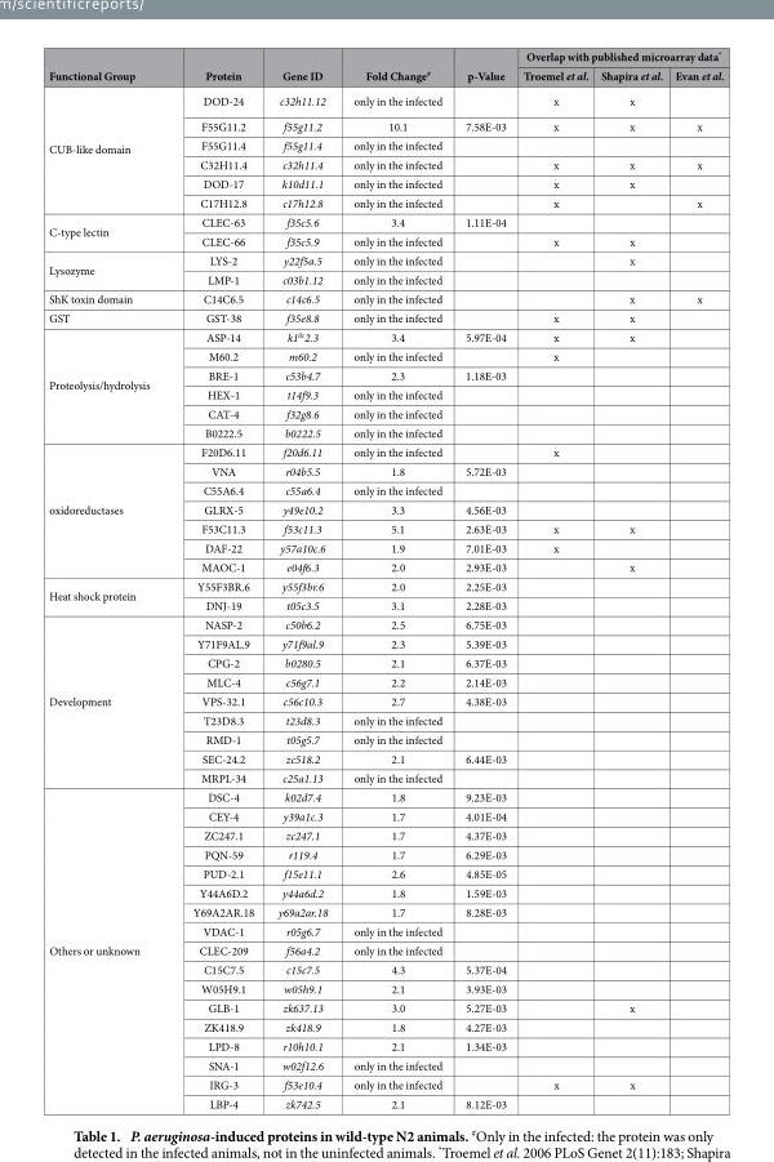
<table><thead><tr><td rowspan="2">Functional Group</td><td rowspan="2">Protein</td><td rowspan="2">Gene ID</td><td rowspan="2">Fold Change#</td><td rowspan="2">p-Value</td><td colspan="3">Overlap with published microarray data*</td></tr><tr><td>Troemel et al.</td><td>Shapira et al.</td><td>Evan et al.</td></tr></thead><tbody><tr><td rowspan="6">CUB-like domain</td><td>DOD-24</td><td>c32h11.12</td><td>only in the infected</td><td></td><td>x</td><td>x</td><td></td></tr><tr><td>F55G11.2</td><td>f55g11.2</td><td>10.1</td><td>7.58E-03</td><td>x</td><td>x</td><td>x</td></tr><tr><td>F55G11.4</td><td>f55g11.4</td><td>only in the infected</td><td></td><td></td><td></td><td></td></tr><tr><td>C32H11.4</td><td>c32h11.4</td><td>only in the infected</td><td></td><td>x</td><td>x</td><td>x</td></tr><tr><td>DOD-17</td><td>k10d11.1</td><td>only in the infected</td><td></td><td>x</td><td>x</td><td></td></tr><tr><td>C17H12.8</td><td>c17h12.8</td><td>only in the infected</td><td></td><td>x</td><td></td><td>x</td></tr><tr><td rowspan="2">C-type lectin</td><td>CLEC-63</td><td>f35c5.6</td><td>3.4</td><td>1.11E-04</td><td></td><td></td><td></td></tr><tr><td>CLEC-66</td><td>f35c5.9</td><td>only in the infected</td><td></td><td>x</td><td>x</td><td></td></tr><tr><td rowspan="2">Lysozyme</td><td>LYS-2</td><td>y22f5a.5</td><td>only in the infected</td><td></td><td></td><td>x</td><td></td></tr><tr><td>LMP-1</td><td>c03b1.12</td><td>only in the infected</td><td></td><td></td><td></td><td></td></tr><tr><td>ShK toxin domain</td><td>C14C6.5</td><td>c14c6.5</td><td>only in the infected</td><td></td><td></td><td>x</td><td>x</td></tr><tr><td>GST</td><td>GST-38</td><td>f35e8.8</td><td>only in the infected</td><td></td><td>x</td><td>x</td><td></td></tr><tr><td rowspan="6">Proteolysis/hydrolysis</td><td>ASP-14</td><td>k1<sup>0c</sup>2.3</td><td>3.4</td><td>5.97E-04</td><td>x</td><td>x</td><td></td></tr><tr><td>M60.2</td><td>m60.2</td><td>only in the infected</td><td></td><td>x</td><td></td><td></td></tr><tr><td>BRE-1</td><td>c53b4.7</td><td>2.3</td><td>1.18E-03</td><td></td><td></td><td></td></tr><tr><td>HEX-1</td><td>t14f9.3</td><td>only in the infected</td><td></td><td></td><td></td><td></td></tr><tr><td>CAT-4</td><td>f32g8.6</td><td>only in the infected</td><td></td><td></td><td></td><td></td></tr><tr><td>B0222.5</td><td>b0222.5</td><td>only in the infected</td><td></td><td></td><td></td><td></td></tr><tr><td rowspan="7">oxidoreductases</td><td>F20D6.11</td><td>f20d6.11</td><td>only in the infected</td><td></td><td>x</td><td></td><td></td></tr><tr><td>VNA</td><td>r04b5.5</td><td>1.8</td><td>5.72E-03</td><td></td><td></td><td></td></tr><tr><td>C55A6.4</td><td>c55a6.4</td><td>only in the infected</td><td></td><td></td><td></td><td></td></tr><tr><td>GLRX-5</td><td>y49e10.2</td><td>3.3</td><td>4.56E-03</td><td></td><td></td><td></td></tr><tr><td>F53C11.3</td><td>f53c11.3</td><td>5.1</td><td>2.63E-03</td><td>x</td><td>x</td><td></td></tr><tr><td>DAF-22</td><td>y57a10c.6</td><td>1.9</td><td>7.01E-03</td><td>x</td><td></td><td></td></tr><tr><td>MAOC-1</td><td>e04f6.3</td><td>2.0</td><td>2.93E-03</td><td></td><td>x</td><td></td></tr><tr><td rowspan="2">Heat shock protein</td><td>Y55F3BR.6</td><td>y55f3br.6</td><td>2.0</td><td>2.25E-03</td><td></td><td></td><td></td></tr><tr><td>DNJ-19</td><td>t05c3.5</td><td>3.1</td><td>2.28E-03</td><td></td><td></td><td></td></tr><tr><td rowspan="9">Development</td><td>NASP-2</td><td>c50b6.2</td><td>2.5</td><td>6.75E-03</td><td></td><td></td><td></td></tr><tr><td>Y71F9AL.9</td><td>y71f9al.9</td><td>2.3</td><td>5.39E-03</td><td></td><td></td><td></td></tr><tr><td>CPG-2</td><td>b0280.5</td><td>2.1</td><td>6.37E-03</td><td></td><td></td><td></td></tr><tr><td>MLC-4</td><td>c56g7.1</td><td>2.2</td><td>2.14E-03</td><td></td><td></td><td></td></tr><tr><td>VPS-32.1</td><td>c56c10.3</td><td>2.7</td><td>4.38E-03</td><td></td><td></td><td></td></tr><tr><td>T23D8.3</td><td>t23d8.3</td><td>only in the infected</td><td></td><td></td><td></td><td></td></tr><tr><td>RMD-1</td><td>t05g5.7</td><td>only in the infected</td><td></td><td></td><td></td><td></td></tr><tr><td>SEC-24.2</td><td>zc518.2</td><td>2.1</td><td>6.44E-03</td><td></td><td></td><td></td></tr><tr><td>MRPL-34</td><td>c25a1.13</td><td>only in the infected</td><td></td><td></td><td></td><td></td></tr><tr><td rowspan="17">Others or unknown</td><td>DSC-4</td><td>k02d7.4</td><td>1.8</td><td>9.23E-03</td><td></td><td></td><td></td></tr><tr><td>CEY-4</td><td>y39a1c.3</td><td>1.7</td><td>4.01E-04</td><td></td><td></td><td></td></tr><tr><td>ZC247.1</td><td>zc247.1</td><td>1.7</td><td>4.37E-03</td><td></td><td></td><td></td></tr><tr><td>PQN-59</td><td>r119.4</td><td>1.7</td><td>6.29E-03</td><td></td><td></td><td></td></tr><tr><td>PUD-2.1</td><td>f15e11.1</td><td>2.6</td><td>4.85E-05</td><td></td><td></td><td></td></tr><tr><td>Y44A6D.2</td><td>y44a6d.2</td><td>1.8</td><td>1.59E-03</td><td></td><td></td><td></td></tr><tr><td>Y69A2AR.18</td><td>y69a2ar.18</td><td>1.7</td><td>8.28E-03</td><td></td><td></td><td></td></tr><tr><td>VDAC-1</td><td>r05g6.7</td><td>only in the infected</td><td></td><td></td><td></td><td></td></tr><tr><td>CLEC-209</td><td>f56a4.2</td><td>only in the infected</td><td></td><td></td><td></td><td></td></tr><tr><td>C15C7.5</td><td>c15c7.5</td><td>4.3</td><td>5.37E-04</td><td></td><td></td><td></td></tr><tr><td>W05H9.1</td><td>w05h9.1</td><td>2.1</td><td>3.93E-03</td><td></td><td></td><td></td></tr><tr><td>GLB-1</td><td>zk637.13</td><td>3.0</td><td>5.27E-03</td><td></td><td>x</td><td></td></tr><tr><td>ZK418.9</td><td>zk418.9</td><td>1.8</td><td>4.27E-03</td><td></td><td></td><td></td></tr><tr><td>LPD-8</td><td>r10h10.1</td><td>2.1</td><td>1.34E-03</td><td></td><td></td><td></td></tr><tr><td>SNA-1</td><td>w02f12.6</td><td>only in the infected</td><td></td><td></td><td></td><td></td></tr><tr><td>IRG-3</td><td>f53e10.4</td><td>only in the infected</td><td></td><td>x</td><td>x</td><td></td></tr><tr><td>LBP-4</td><td>zk742.5</td><td>2.1</td><td>8.12E-03</td><td></td><td></td><td></td></tr></tbody></table>